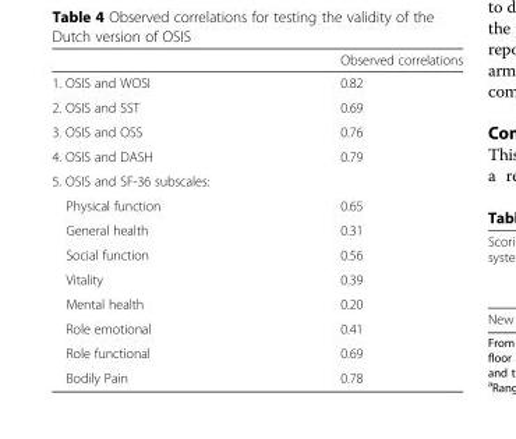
<table><thead><tr><td></td><td>Observed correlations</td></tr></thead><tbody><tr><td>1. OSIS and WOSI</td><td>0.82</td></tr><tr><td>2. OSIS and SST</td><td>0.69</td></tr><tr><td>3. OSIS and OSS</td><td>0.76</td></tr><tr><td>4. OSIS and DASH</td><td>0.79</td></tr><tr><td colspan="2">5. OSIS and SF-36 subscales:</td></tr><tr><td>Physical function</td><td>0.65</td></tr><tr><td>General health</td><td>0.31</td></tr><tr><td>Social function</td><td>0.56</td></tr><tr><td>Vitality</td><td>0.39</td></tr><tr><td>Mental health</td><td>0.20</td></tr><tr><td>Role emotional</td><td>0.41</td></tr><tr><td>Role functional</td><td>0.69</td></tr><tr><td>Bodily Pain</td><td>0.78</td></tr></tbody></table>